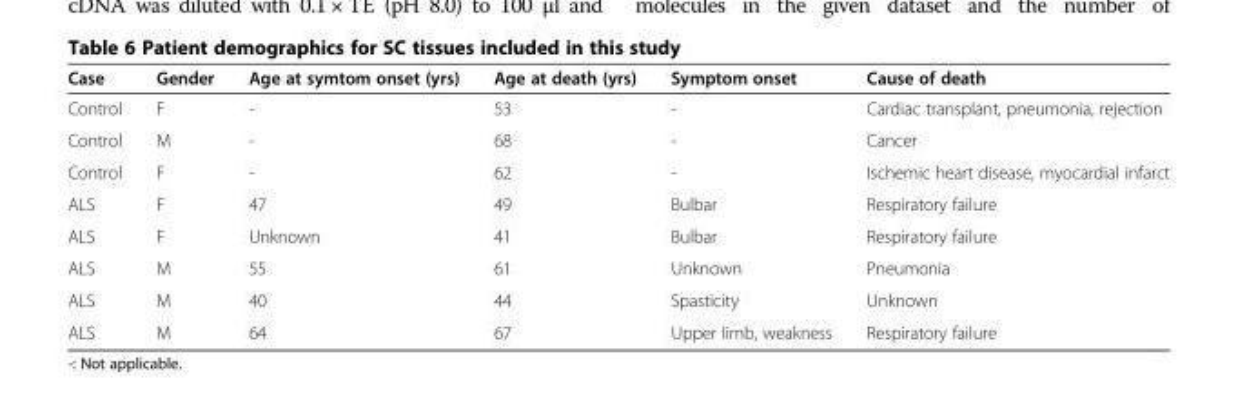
<table><thead><tr><td>Case</td><td>Gender</td><td>Age at symtom onset (yrs)</td><td>Age at death (yrs)</td><td>Symptom onset</td><td>Cause of death</td></tr></thead><tbody><tr><td>Control</td><td>F</td><td>-</td><td>53</td><td>-</td><td>Cardiac transplant, pneumonia, rejection</td></tr><tr><td>Control</td><td>M</td><td>-</td><td>68</td><td>-</td><td>Cancer</td></tr><tr><td>Control</td><td>F</td><td>-</td><td>62</td><td>-</td><td>Ischemic heart disease, myocardial infarct</td></tr><tr><td>ALS</td><td>F</td><td>47</td><td>49</td><td>Bulbar</td><td>Respiratory failure</td></tr><tr><td>ALS</td><td>F</td><td>Unknown</td><td>41</td><td>Bulbar</td><td>Respiratory failure</td></tr><tr><td>ALS</td><td>M</td><td>55</td><td>61</td><td>Unknown</td><td>Pneumonia</td></tr><tr><td>ALS</td><td>M</td><td>40</td><td>44</td><td>Spasticity</td><td>Unknown</td></tr><tr><td>ALS</td><td>M</td><td>64</td><td>67</td><td>Upper limb, weakness</td><td>Respiratory failure</td></tr></tbody></table>